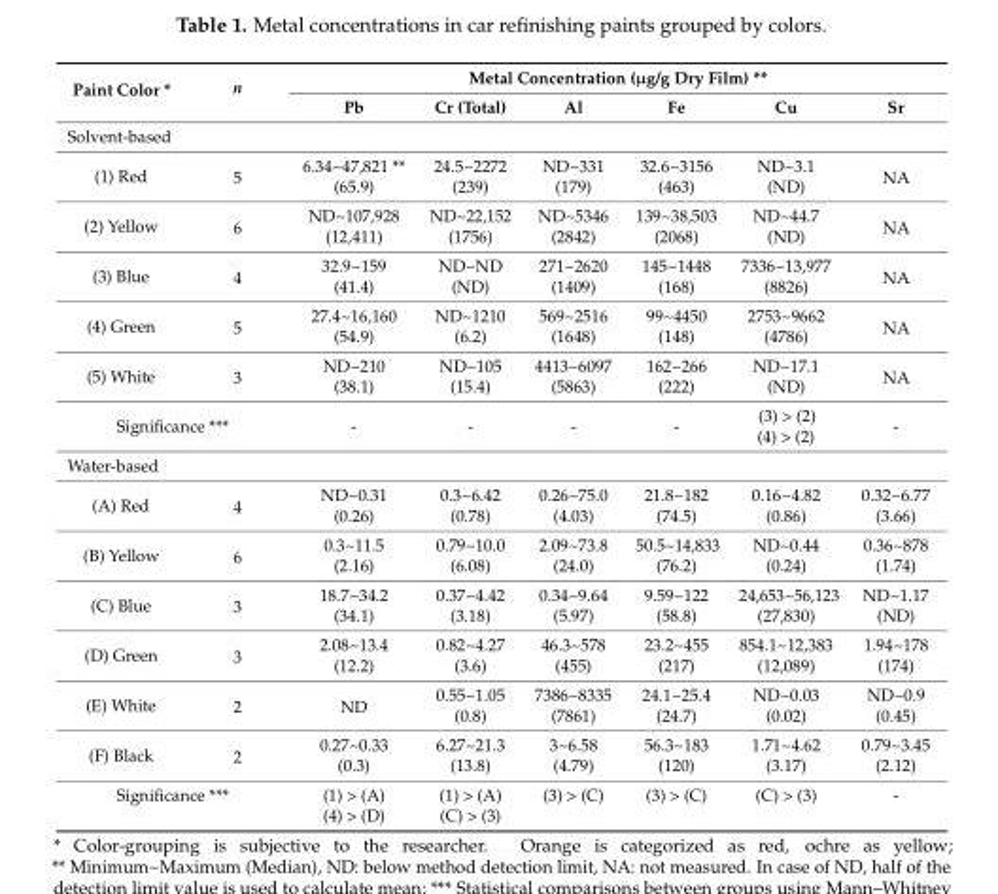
<table><thead><tr><td rowspan="2">Paint Color *</td><td rowspan="2">n</td><td colspan="6">Metal Concentration (µg/g Dry Film) **</td></tr><tr><td>Pb</td><td>Cr (Total)</td><td>Al</td><td>Fe</td><td>Cu</td><td>Sr</td></tr></thead><tbody><tr><td colspan="8">Solvent-based</td></tr><tr><td rowspan="2">(1) Red</td><td rowspan="2">5</td><td>6.34~47,821 **</td><td>24.5~2272</td><td>ND~331</td><td>32.6~3156</td><td>ND~3.1</td><td rowspan="2">NA</td></tr><tr><td>(65.9)</td><td>(239)</td><td>(179)</td><td>(463)</td><td>(ND)</td></tr><tr><td rowspan="2">(2) Yellow</td><td rowspan="2">6</td><td>ND~107,928</td><td>ND~22,152</td><td>ND~5346</td><td>139~38,503</td><td>ND~44.7</td><td rowspan="2">NA</td></tr><tr><td>(12,411)</td><td>(1756)</td><td>(2842)</td><td>(2068)</td><td>(ND)</td></tr><tr><td rowspan="2">(3) Blue</td><td rowspan="2">4</td><td>32.9~159</td><td>ND~ND</td><td>271~2620</td><td>145~1448</td><td>7336~13,977</td><td rowspan="2">NA</td></tr><tr><td>(41.4)</td><td>(ND)</td><td>(1409)</td><td>(168)</td><td>(8826)</td></tr><tr><td rowspan="2">(4) Green</td><td rowspan="2">5</td><td>27.4~16,160</td><td>ND~1210</td><td>569~2516</td><td>99~4450</td><td>2753~9662</td><td rowspan="2">NA</td></tr><tr><td>(54.9)</td><td>(6.2)</td><td>(1648)</td><td>(148)</td><td>(4786)</td></tr><tr><td rowspan="2">(5) White</td><td rowspan="2">3</td><td>ND~210</td><td>ND~105</td><td>4413~6097</td><td>162~266</td><td>ND~17.1</td><td rowspan="2">NA</td></tr><tr><td>(38.1)</td><td>(15.4)</td><td>(5863)</td><td>(222)</td><td>(ND)</td></tr><tr><td colspan="2">Significance ***</td><td>-</td><td>-</td><td>-</td><td>-</td><td>(3) &gt; (2) (4) &gt; (2)</td><td>-</td></tr><tr><td colspan="8">Water-based</td></tr><tr><td rowspan="2">(A) Red</td><td rowspan="2">4</td><td>ND~0.31</td><td>0.3~6.42</td><td>0.26~75.0</td><td>21.8~182</td><td>0.16~4.82</td><td>0.32~6.77</td></tr><tr><td>(0.26)</td><td>(0.78)</td><td>(4.03)</td><td>(74.5)</td><td>(0.86)</td><td>(3.66)</td></tr><tr><td rowspan="2">(B) Yellow</td><td rowspan="2">6</td><td>0.3~11.5</td><td>0.79~10.0</td><td>2.09~73.8</td><td>50.5~14,833</td><td>ND~0.44</td><td>0.36~878</td></tr><tr><td>(2.16)</td><td>(6.08)</td><td>(24.0)</td><td>(76.2)</td><td>(0.24)</td><td>(1.74)</td></tr><tr><td rowspan="2">(C) Blue</td><td rowspan="2">3</td><td>18.7~34.2</td><td>0.37~4.42</td><td>0.34~9.64</td><td>9.59~122</td><td>24,653~56,123</td><td>ND~1.17</td></tr><tr><td>(34.1)</td><td>(3.18)</td><td>(5.97)</td><td>(58.8)</td><td>(27,830)</td><td>(ND)</td></tr><tr><td rowspan="2">(D) Green</td><td rowspan="2">3</td><td>2.08~13.4</td><td>0.82~4.27</td><td>46.3~578</td><td>23.2~455</td><td>854.1~12,383</td><td>1.94~178</td></tr><tr><td>(12.2)</td><td>(3.6)</td><td>(455)</td><td>(217)</td><td>(12,089)</td><td>(174)</td></tr><tr><td rowspan="2">(E) White</td><td rowspan="2">2</td><td rowspan="2">ND</td><td>0.55~1.05</td><td>7386~8335</td><td>24.1~25.4</td><td>ND~0.03</td><td>ND~0.9</td></tr><tr><td>(0.8)</td><td>(7861)</td><td>(24.7)</td><td>(0.02)</td><td>(0.45)</td></tr><tr><td rowspan="2">(F) Black</td><td rowspan="2">2</td><td>0.27~0.33</td><td>6.27~21.3</td><td>3~6.58</td><td>56.3~183</td><td>1.71~4.62</td><td>0.79~3.45</td></tr><tr><td>(0.3)</td><td>(13.8)</td><td>(4.79)</td><td>(120)</td><td>(3.17)</td><td>(2.12)</td></tr><tr><td rowspan="2" colspan="2">Significance ***</td><td>(1) &gt; (A)</td><td>(1) &gt; (A)</td><td>(3) &gt; (C)</td><td>(3) &gt; (C)</td><td>(C) &gt; (3)</td><td>-</td></tr><tr><td>(4) &gt; (D)</td><td>(C) &gt; (3)</td><td></td><td></td><td></td><td></td></tr></tbody></table>